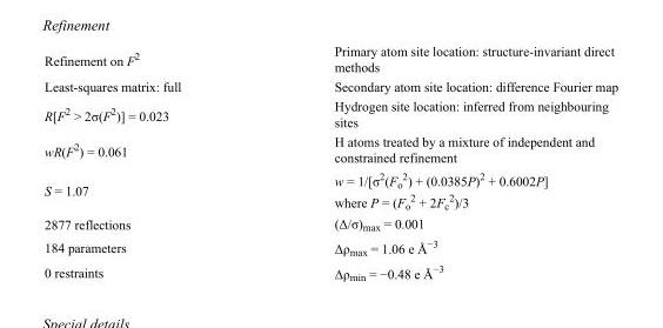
<table><tbody><tr><td>Refinement on F<sup>2</sup></td><td>Primary atom site location: structure-invariant direct methods</td></tr><tr><td>Least-squares matrix: full</td><td>Secondary atom site location: difference Fourier map</td></tr><tr><td>R[F<sup>2</sup> &gt; 2σ(F<sup>2</sup>)] = 0.023</td><td>Hydrogen site location: inferred from neighbouring sites</td></tr><tr><td>wR(F<sup>2</sup>) = 0.061</td><td>H atoms treated by a mixture of independent and constrained refinement</td></tr><tr><td>S = 1.07</td><td>w = 1/[σ<sup>2</sup>(F<sub>o</sub> <sup>2</sup>) + (0.0385P)<sup>2</sup> + 0.6002P] where P = (F<sub>o</sub> <sup>2</sup> + 2F<sub>c</sub> <sup>2</sup>)/3</td></tr><tr><td>2877 reflections</td><td>(Δ/σ)<sub>max</sub> = 0.001</td></tr><tr><td>184 parameters</td><td>Δρ<sub>max</sub> = 1.06 e Å<sup>−3</sup></td></tr><tr><td>0 restraints</td><td>Δρ<sub>min</sub> = −0.48 e Å<sup>−3</sup></td></tr></tbody></table>